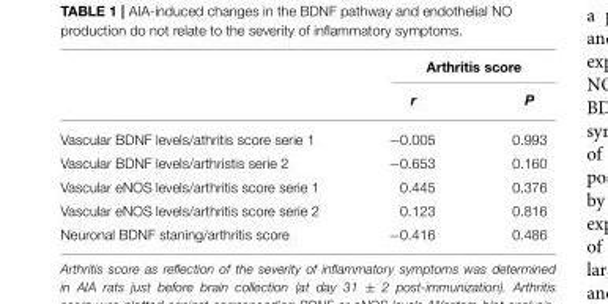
<table><thead><tr><td rowspan="2"></td><td colspan="2">Arthritis score</td></tr><tr><td>r</td><td>P</td></tr></thead><tbody><tr><td>Vascular BDNF levels/athritis score serie 1</td><td>−0.005</td><td>0.993</td></tr><tr><td>Vascular BDNF levels/arthristis serie 2</td><td>−0.653</td><td>0.160</td></tr><tr><td>Vascular eNOS levels/arthritis score serie 1</td><td>0.445</td><td>0.376</td></tr><tr><td>Vascular eNOS levels/arthritis score serie 2</td><td>0.123</td><td>0.816</td></tr><tr><td>Neuronal BDNF staning/arthritis score</td><td>−0.416</td><td>0.486</td></tr></tbody></table>